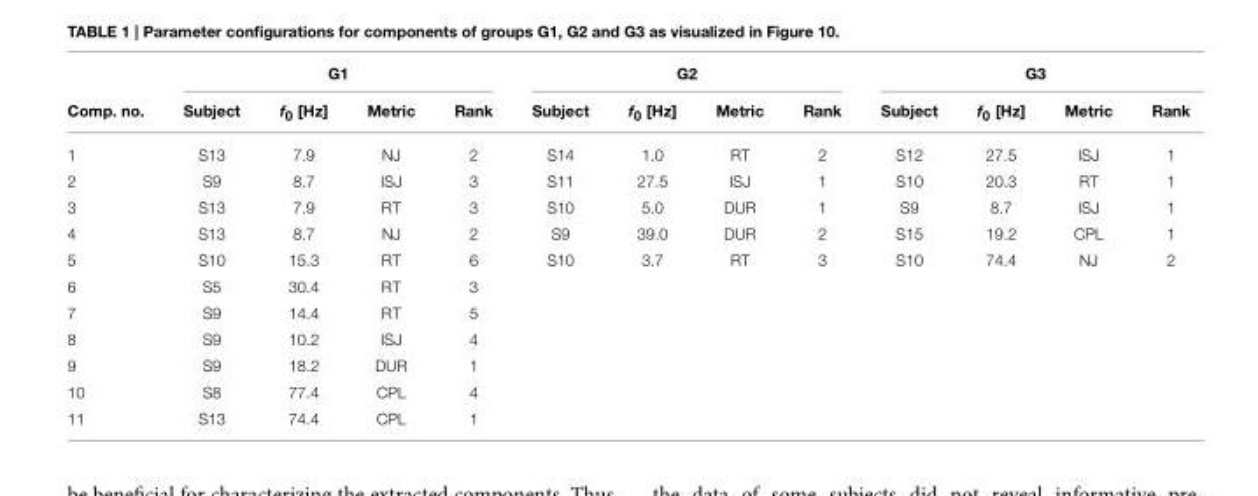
<table><thead><tr><td rowspan="2">Comp. no.</td><td colspan="4">G1</td><td colspan="4">G2</td><td colspan="4">G3</td></tr><tr><td>Subject</td><td>f<sub>0</sub> [Hz]</td><td>Metric</td><td>Rank</td><td>Subject</td><td>f<sub>0</sub> [Hz]</td><td>Metric</td><td>Rank</td><td>Subject</td><td>f<sub>0</sub> [Hz]</td><td>Metric</td><td>Rank</td></tr></thead><tbody><tr><td>1</td><td>S13</td><td>7.9</td><td>NJ</td><td>2</td><td>S14</td><td>1.0</td><td>RT</td><td>2</td><td>S12</td><td>27.5</td><td>ISJ</td><td>1</td></tr><tr><td>2</td><td>S9</td><td>8.7</td><td>ISJ</td><td>3</td><td>S11</td><td>27.5</td><td>ISJ</td><td>1</td><td>S10</td><td>20.3</td><td>RT</td><td>1</td></tr><tr><td>3</td><td>S13</td><td>7.9</td><td>RT</td><td>3</td><td>S10</td><td>5.0</td><td>DUR</td><td>1</td><td>S9</td><td>8.7</td><td>ISJ</td><td>1</td></tr><tr><td>4</td><td>S13</td><td>8.7</td><td>NJ</td><td>2</td><td>S9</td><td>39.0</td><td>DUR</td><td>2</td><td>S15</td><td>19.2</td><td>CPL</td><td>1</td></tr><tr><td>5</td><td>S10</td><td>15.3</td><td>RT</td><td>6</td><td>S10</td><td>3.7</td><td>RT</td><td>3</td><td>S10</td><td>74.4</td><td>NJ</td><td>2</td></tr><tr><td>6</td><td>S5</td><td>30.4</td><td>RT</td><td>3</td><td></td><td></td><td></td><td></td><td></td><td></td><td></td><td></td></tr><tr><td>7</td><td>S9</td><td>14.4</td><td>RT</td><td>5</td><td></td><td></td><td></td><td></td><td></td><td></td><td></td><td></td></tr><tr><td>8</td><td>S9</td><td>10.2</td><td>ISJ</td><td>4</td><td></td><td></td><td></td><td></td><td></td><td></td><td></td><td></td></tr><tr><td>9</td><td>S9</td><td>18.2</td><td>DUR</td><td>1</td><td></td><td></td><td></td><td></td><td></td><td></td><td></td><td></td></tr><tr><td>10</td><td>S8</td><td>77.4</td><td>CPL</td><td>4</td><td></td><td></td><td></td><td></td><td></td><td></td><td></td><td></td></tr><tr><td>11</td><td>S13</td><td>74.4</td><td>CPL</td><td>1</td><td></td><td></td><td></td><td></td><td></td><td></td><td></td><td></td></tr></tbody></table>